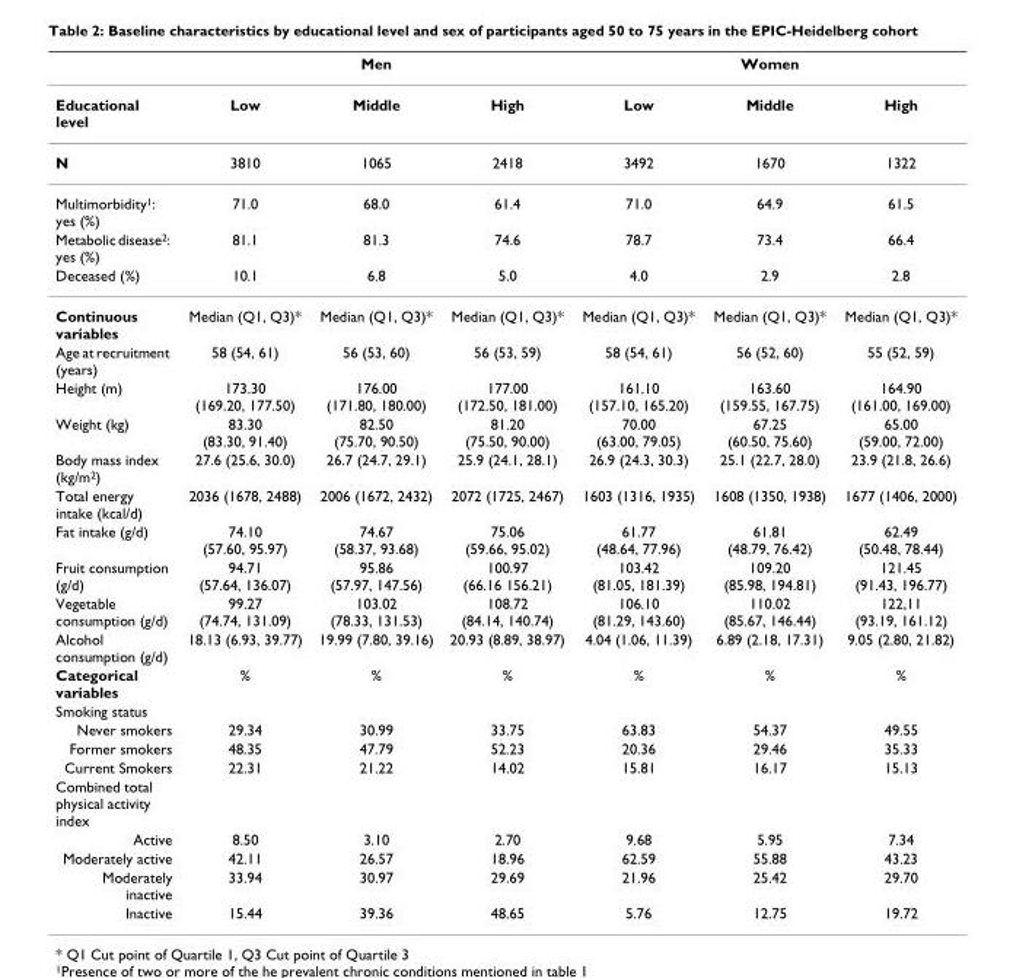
<table><thead><tr><td rowspan="2">Educational level</td><td colspan="3">Men</td><td colspan="3">Women</td></tr><tr><td>Low</td><td>Middle</td><td>High</td><td>Low</td><td>Middle</td><td>High</td></tr></thead><tbody><tr><td>N</td><td>3810</td><td>1065</td><td>2418</td><td>3492</td><td>1670</td><td>1322</td></tr><tr><td>Multimorbidity<sup>1</sup>: yes (%)</td><td>71.0</td><td>68.0</td><td>61.4</td><td>71.0</td><td>64.9</td><td>61.5</td></tr><tr><td>Metabolic disease<sup>2</sup>: yes (%)</td><td>81.1</td><td>81.3</td><td>74.6</td><td>78.7</td><td>73.4</td><td>66.4</td></tr><tr><td>Deceased (%)</td><td>10.1</td><td>6.8</td><td>5.0</td><td>4.0</td><td>2.9</td><td>2.8</td></tr><tr><td>Continuous variables</td><td>Median (Q1, Q3)*</td><td>Median (Q1, Q3)*</td><td>Median (Q1, Q3)*</td><td>Median (Q1, Q3)*</td><td>Median (Q1, Q3)*</td><td>Median (Q1, Q3)*</td></tr><tr><td>Age at recruitment (years)</td><td>58 (54, 61)</td><td>56 (53, 60)</td><td>56 (53, 59)</td><td>58 (54, 61)</td><td>56 (52, 60)</td><td>55 (52, 59)</td></tr><tr><td>Height (m)</td><td>173.30 (169.20, 177.50)</td><td>176.00 (171.80, 180.00)</td><td>177.00 (172.50, 181.00)</td><td>161.10 (157.10, 165.20)</td><td>163.60 (159.55, 167.75)</td><td>164.90 (161.00, 169.00)</td></tr><tr><td>Weight (kg)</td><td>83.30 (83.30, 91.40)</td><td>82.50 (75.70, 90.50)</td><td>81.20 (75.50, 90.00)</td><td>70.00 (63.00, 79.05)</td><td>67.25 (60.50, 75.60)</td><td>65.00 (59.00, 72.00)</td></tr><tr><td>Body mass index (kg/m<sup>2</sup>)</td><td>27.6 (25.6, 30.0)</td><td>26.7 (24.7, 29.1)</td><td>25.9 (24.1, 28.1)</td><td>26.9 (24.3, 30.3)</td><td>25.1 (22.7, 28.0)</td><td>23.9 (21.8, 26.6)</td></tr><tr><td>Total energy intake (kcal/d)</td><td>2036 (1678, 2488)</td><td>2006 (1672, 2432)</td><td>2072 (1725, 2467)</td><td>1603 (1316, 1935)</td><td>1608 (1350, 1938)</td><td>1677 (1406, 2000)</td></tr><tr><td>Fat intake (g/d)</td><td>74.10 (57.60, 95.97)</td><td>74.67 (58.37, 93.68)</td><td>75.06 (59.66, 95.02)</td><td>61.77 (48.64, 77.96)</td><td>61.81 (48.79, 76.42)</td><td>62.49 (50.48, 78.44)</td></tr><tr><td>Fruit consumption (g/d)</td><td>94.71 (57.64, 136.07)</td><td>95.86 (57.97, 147.56)</td><td>100.97 (66.16 156.21)</td><td>103.42 (81.05, 181.39)</td><td>109.20 (85.98, 194.81)</td><td>121.45 (91.43, 196.77)</td></tr><tr><td>Vegetable consumption (g/d)</td><td>99.27 (74.74, 131.09)</td><td>103.02 (78.33, 131.53)</td><td>108.72 (84.14, 140.74)</td><td>106.10 (81.29, 143.60)</td><td>110.02 (85.67, 146.44)</td><td>122,11 (93.19, 161.12)</td></tr><tr><td>Alcohol consumption (g/d)</td><td>18.13 (6.93, 39.77)</td><td>19.99 (7.80, 39.16)</td><td>20.93 (8.89, 38.97)</td><td>4.04 (1.06, 11.39)</td><td>6.89 (2.18, 17.31)</td><td>9.05 (2.80, 21.82)</td></tr><tr><td>Categorical variables</td><td>%</td><td>%</td><td>%</td><td>%</td><td>%</td><td>%</td></tr><tr><td colspan="7">Smoking status</td></tr><tr><td>Never smokers</td><td>29.34</td><td>30.99</td><td>33.75</td><td>63.83</td><td>54.37</td><td>49.55</td></tr><tr><td>Former smokers</td><td>48.35</td><td>47.79</td><td>52.23</td><td>20.36</td><td>29.46</td><td>35.33</td></tr><tr><td>Current Smokers</td><td>22.31</td><td>21.22</td><td>14.02</td><td>15.81</td><td>16.17</td><td>15.13</td></tr><tr><td colspan="7">Combined total physical activity index</td></tr><tr><td>Active</td><td>8.50</td><td>3.10</td><td>2.70</td><td>9.68</td><td>5.95</td><td>7.34</td></tr><tr><td>Moderately active</td><td>42.11</td><td>26.57</td><td>18.96</td><td>62.59</td><td>55.88</td><td>43.23</td></tr><tr><td>Moderately inactive</td><td>33.94</td><td>30.97</td><td>29.69</td><td>21.96</td><td>25.42</td><td>29.70</td></tr><tr><td>Inactive</td><td>15.44</td><td>39.36</td><td>48.65</td><td>5.76</td><td>12.75</td><td>19.72</td></tr></tbody></table>